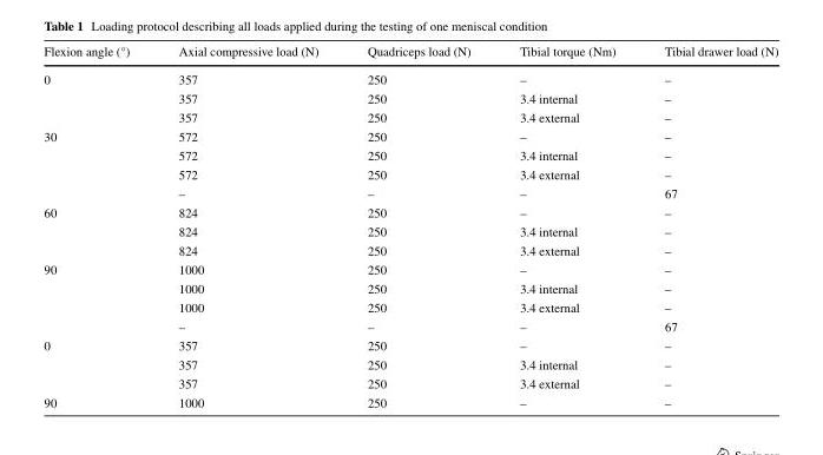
<table><thead><tr><td>Flexion angle (°)</td><td>Axial compressive load (N)</td><td>Quadriceps load (N)</td><td>Tibial torque (Nm)</td><td>Tibial drawer load (N)</td></tr></thead><tbody><tr><td rowspan="3">0</td><td>357</td><td>250</td><td>–</td><td>–</td></tr><tr><td>357</td><td>250</td><td>3.4 internal</td><td>–</td></tr><tr><td>357</td><td>250</td><td>3.4 external</td><td>–</td></tr><tr><td rowspan="4">30</td><td>572</td><td>250</td><td>–</td><td>–</td></tr><tr><td>572</td><td>250</td><td>3.4 internal</td><td>–</td></tr><tr><td>572</td><td>250</td><td>3.4 external</td><td>–</td></tr><tr><td>–</td><td>–</td><td>–</td><td>67</td></tr><tr><td rowspan="3">60</td><td>824</td><td>250</td><td>–</td><td>–</td></tr><tr><td>824</td><td>250</td><td>3.4 internal</td><td>–</td></tr><tr><td>824</td><td>250</td><td>3.4 external</td><td>–</td></tr><tr><td rowspan="4">90</td><td>1000</td><td>250</td><td>–</td><td>–</td></tr><tr><td>1000</td><td>250</td><td>3.4 internal</td><td>–</td></tr><tr><td>1000</td><td>250</td><td>3.4 external</td><td>–</td></tr><tr><td>–</td><td>–</td><td>–</td><td>67</td></tr><tr><td rowspan="3">0</td><td>357</td><td>250</td><td>–</td><td>–</td></tr><tr><td>357</td><td>250</td><td>3.4 internal</td><td>–</td></tr><tr><td>357</td><td>250</td><td>3.4 external</td><td>–</td></tr><tr><td>90</td><td>1000</td><td>250</td><td>–</td><td>–</td></tr></tbody></table>